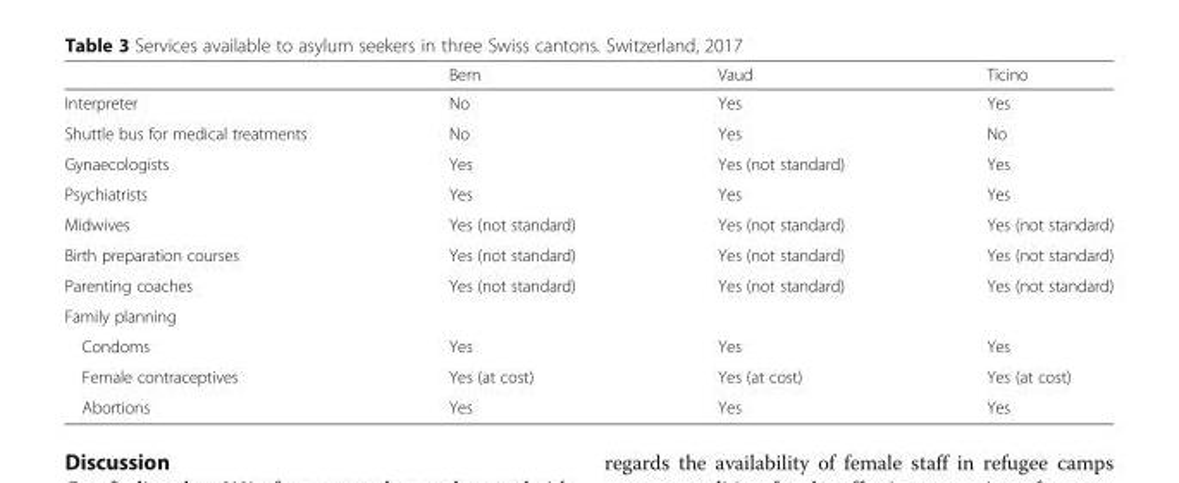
<table><thead><tr><td></td><td>Bern</td><td>Vaud</td><td>Ticino</td></tr></thead><tbody><tr><td>Interpreter</td><td>No</td><td>Yes</td><td>Yes</td></tr><tr><td>Shuttle bus for medical treatments</td><td>No</td><td>Yes</td><td>No</td></tr><tr><td>Gynaecologists</td><td>Yes</td><td>Yes (not standard)</td><td>Yes</td></tr><tr><td>Psychiatrists</td><td>Yes</td><td>Yes</td><td>Yes</td></tr><tr><td>Midwives</td><td>Yes (not standard)</td><td>Yes (not standard)</td><td>Yes (not standard)</td></tr><tr><td>Birth preparation courses</td><td>Yes (not standard)</td><td>Yes (not standard)</td><td>Yes (not standard)</td></tr><tr><td>Parenting coaches</td><td>Yes (not standard)</td><td>Yes (not standard)</td><td>Yes (not standard)</td></tr><tr><td colspan="4">Family planning</td></tr><tr><td>Condoms</td><td>Yes</td><td>Yes</td><td>Yes</td></tr><tr><td>Female contraceptives</td><td>Yes (at cost)</td><td>Yes (at cost)</td><td>Yes (at cost)</td></tr><tr><td>Abortions</td><td>Yes</td><td>Yes</td><td>Yes</td></tr></tbody></table>